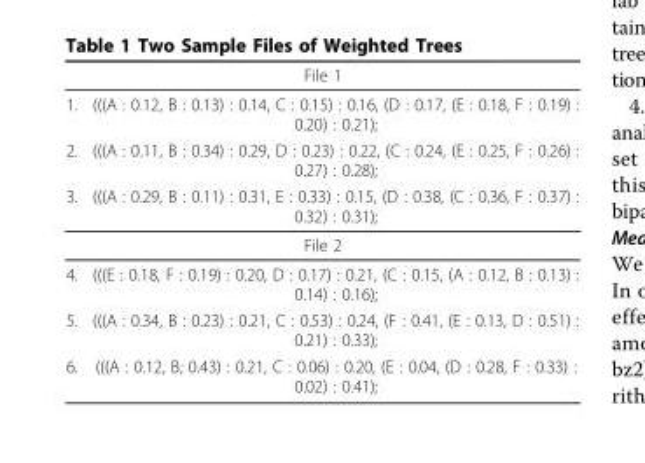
<table><thead><tr><td colspan="2">File 1</td></tr><tr><td>1.</td><td>(((A : 0.12, B : 0.13) : 0.14, C : 0.15) : 0.16, (D : 0.17, (E : 0.18, F : 0.19) : 0.20) : 0.21);</td></tr></thead><tbody><tr><td>2.</td><td>(((A : 0.11, B : 0.34) : 0.29, D : 0.23) : 0.22, (C : 0.24, (E : 0.25, F : 0.26) : 0.27) : 0.28);</td></tr><tr><td>3.</td><td>(((A : 0.29, B : 0.11) : 0.31, E : 0.33) : 0.15, (D : 0.38, (C : 0.36, F : 0.37) : 0.32) : 0.31);</td></tr><tr><td colspan="2">File 2</td></tr><tr><td>4.</td><td>(((E : 0.18, F : 0.19) : 0.20, D : 0.17) : 0.21, (C : 0.15, (A : 0.12, B : 0.13) : 0.14) : 0.16);</td></tr><tr><td>5.</td><td>(((A : 0.34, B : 0.23) : 0.21, C : 0.53) : 0.24, (F : 0.41, (E : 0.13, D : 0.51) : 0.21) : 0.33);</td></tr><tr><td>6.</td><td>(((A : 0.12, B; 0.43) : 0.21, C : 0.06) : 0.20, (E : 0.04, (D : 0.28, F : 0.33) : 0.02) : 0.41);</td></tr></tbody></table>